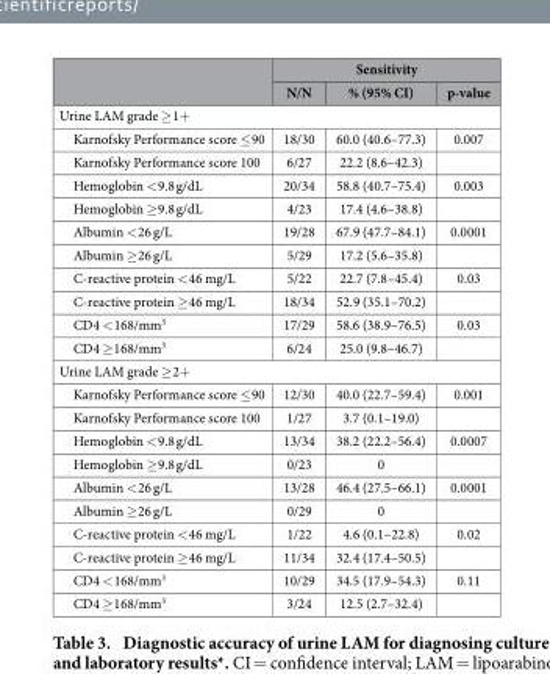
<table><thead><tr><td rowspan="2"></td><td colspan="3">Sensitivity</td></tr><tr><td>N/N</td><td>% (95% CI)</td><td>p-value</td></tr></thead><tbody><tr><td colspan="4">Urine LAM grade ≥ 1+</td></tr><tr><td>Karnofsky Performance score ≤ 90</td><td>18/30</td><td>60.0 (40.6–77.3)</td><td>0.007</td></tr><tr><td>Karnofsky Performance score 100</td><td>6/27</td><td>22.2 (8.6–42.3)</td><td></td></tr><tr><td>Hemoglobin &lt; 9.8 g/dL</td><td>20/34</td><td>58.8 (40.7–75.4)</td><td>0.003</td></tr><tr><td>Hemoglobin ≥ 9.8 g/dL</td><td>4/23</td><td>17.4 (4.6–38.8)</td><td></td></tr><tr><td>Albumin &lt; 26 g/L</td><td>19/28</td><td>67.9 (47.7–84.1)</td><td>0.0001</td></tr><tr><td>Albumin ≥ 26 g/L</td><td>5/29</td><td>17.2 (5.6–35.8)</td><td></td></tr><tr><td>C-reactive protein &lt; 46 mg/L</td><td>5/22</td><td>22.7 (7.8–45.4)</td><td>0.03</td></tr><tr><td>C-reactive protein ≥ 46 mg/L</td><td>18/34</td><td>52.9 (35.1–70.2)</td><td></td></tr><tr><td>CD4 &lt; 168/mm<sup>3</sup></td><td>17/29</td><td>58.6 (38.9–76.5)</td><td>0.03</td></tr><tr><td>CD4 ≥ 168/mm<sup>3</sup></td><td>6/24</td><td>25.0 (9.8–46.7)</td><td></td></tr><tr><td colspan="4">Urine LAM grade ≥ 2+</td></tr><tr><td>Karnofsky Performance score ≤ 90</td><td>12/30</td><td>40.0 (22.7–59.4)</td><td>0.001</td></tr><tr><td>Karnofsky Performance score 100</td><td>1/27</td><td>3.7 (0.1–19.0)</td><td></td></tr><tr><td>Hemoglobin &lt; 9.8 g/dL</td><td>13/34</td><td>38.2 (22.2–56.4)</td><td>0.0007</td></tr><tr><td>Hemoglobin ≥ 9.8 g/dL</td><td>0/23</td><td>0</td><td></td></tr><tr><td>Albumin &lt; 26 g/L</td><td>13/28</td><td>46.4 (27.5–66.1)</td><td>0.0001</td></tr><tr><td>Albumin ≥ 26 g/L</td><td>0/29</td><td>0</td><td></td></tr><tr><td>C-reactive protein &lt; 46 mg/L</td><td>1/22</td><td>4.6 (0.1–22.8)</td><td>0.02</td></tr><tr><td>C-reactive protein ≥ 46 mg/L</td><td>11/34</td><td>32.4 (17.4–50.5)</td><td></td></tr><tr><td>CD4 &lt; 168/mm<sup>3</sup></td><td>10/29</td><td>34.5 (17.9–54.3)</td><td>0.11</td></tr><tr><td>CD4 ≥ 168/mm<sup>3</sup></td><td>3/24</td><td>12.5 (2.7–32.4)</td><td></td></tr></tbody></table>